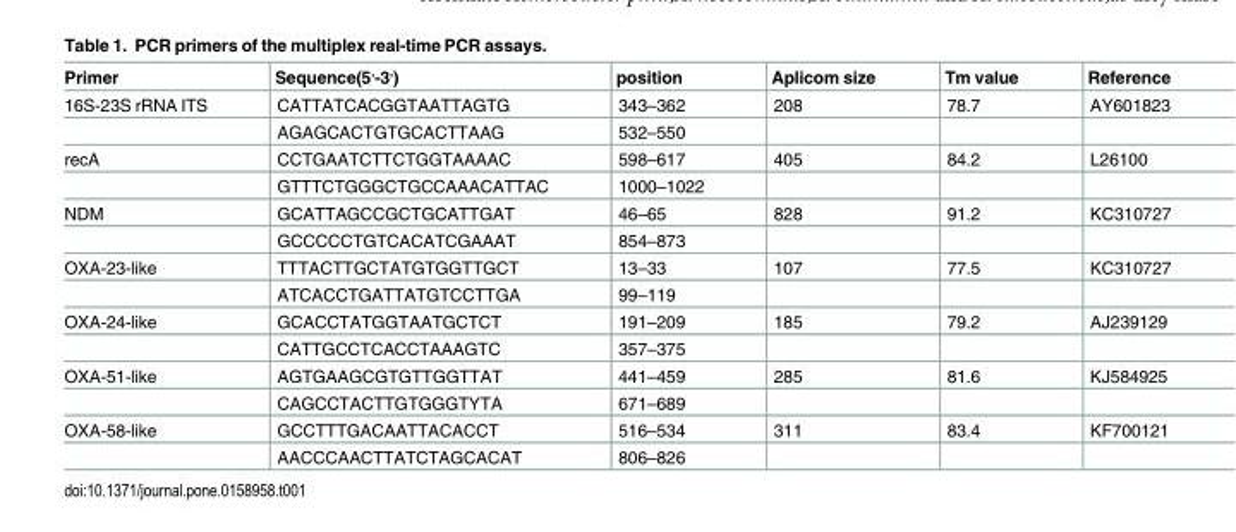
<table><thead><tr><td>Primer</td><td>Sequence(5<sup>,</sup>-3<sup>,</sup>)</td><td>position</td><td>Aplicom size</td><td>Tm value</td><td>Reference</td></tr></thead><tbody><tr><td rowspan="2">16S-23S rRNA ITS</td><td>CATTATCACGGTAATTAGTG</td><td>343–362</td><td>208</td><td>78.7</td><td>AY601823</td></tr><tr><td>AGAGCACTGTGCACTTAAG</td><td>532–550</td><td></td><td></td><td></td></tr><tr><td rowspan="2">recA</td><td>CCTGAATCTTCTGGTAAAAC</td><td>598–617</td><td>405</td><td>84.2</td><td>L26100</td></tr><tr><td>GTTTCTGGGCTGCCAAACATTAC</td><td>1000–1022</td><td></td><td></td><td></td></tr><tr><td rowspan="2">NDM</td><td>GCATTAGCCGCTGCATTGAT</td><td>46–65</td><td>828</td><td>91.2</td><td>KC310727</td></tr><tr><td>GCCCCCTGTCACATCGAAAT</td><td>854–873</td><td></td><td></td><td></td></tr><tr><td rowspan="2">OXA-23-like</td><td>TTTACTTGCTATGTGGTTGCT</td><td>13–33</td><td>107</td><td>77.5</td><td>KC310727</td></tr><tr><td>ATCACCTGATTATGTCCTTGA</td><td>99–119</td><td></td><td></td><td></td></tr><tr><td rowspan="2">OXA-24-like</td><td>GCACCTATGGTAATGCTCT</td><td>191–209</td><td>185</td><td>79.2</td><td>AJ239129</td></tr><tr><td>CATTGCCTCACCTAAAGTC</td><td>357–375</td><td></td><td></td><td></td></tr><tr><td rowspan="2">OXA-51-like</td><td>AGTGAAGCGTGTTGGTTAT</td><td>441–459</td><td>285</td><td>81.6</td><td>KJ584925</td></tr><tr><td>CAGCCTACTTGTGGGTYTA</td><td>671–689</td><td></td><td></td><td></td></tr><tr><td rowspan="2">OXA-58-like</td><td>GCCTTTGACAATTACACCT</td><td>516–534</td><td>311</td><td>83.4</td><td>KF700121</td></tr><tr><td>AACCCAACTTATCTAGCACAT</td><td>806–826</td><td></td><td></td><td></td></tr></tbody></table>